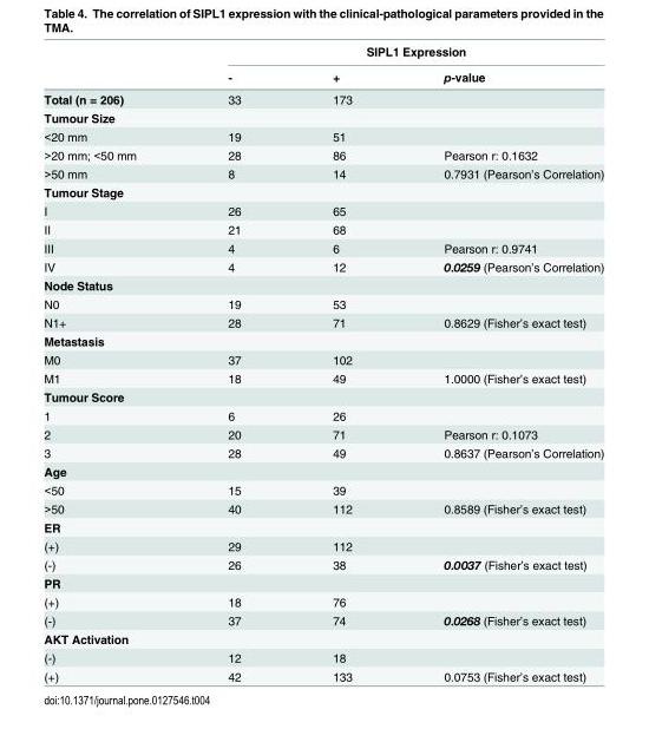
<table><thead><tr><td rowspan="2"></td><td colspan="3">SIPL1 Expression</td></tr><tr><td>-</td><td>+</td><td>p-value</td></tr></thead><tbody><tr><td>Total (n = 206)</td><td>33</td><td>173</td><td></td></tr><tr><td colspan="4">Tumour Size</td></tr><tr><td>&lt;20 mm</td><td>19</td><td>51</td><td></td></tr><tr><td>&gt;20 mm; &lt;50 mm</td><td>28</td><td>86</td><td>Pearson r: 0.1632</td></tr><tr><td>&gt;50 mm</td><td>8</td><td>14</td><td>0.7931 (Pearson’s Correlation)</td></tr><tr><td colspan="4">Tumour Stage</td></tr><tr><td>I</td><td>26</td><td>65</td><td></td></tr><tr><td>II</td><td>21</td><td>68</td><td></td></tr><tr><td>III</td><td>4</td><td>6</td><td>Pearson r: 0.9741</td></tr><tr><td>IV</td><td>4</td><td>12</td><td>0.0259 (Pearson’s Correlation)</td></tr><tr><td colspan="4">Node Status</td></tr><tr><td>N0</td><td>19</td><td>53</td><td></td></tr><tr><td>N1+</td><td>28</td><td>71</td><td>0.8629 (Fisher’s exact test)</td></tr><tr><td colspan="4">Metastasis</td></tr><tr><td>M0</td><td>37</td><td>102</td><td></td></tr><tr><td>M1</td><td>18</td><td>49</td><td>1.0000 (Fisher’s exact test)</td></tr><tr><td colspan="4">Tumour Score</td></tr><tr><td>1</td><td>6</td><td>26</td><td></td></tr><tr><td>2</td><td>20</td><td>71</td><td>Pearson r: 0.1073</td></tr><tr><td>3</td><td>28</td><td>49</td><td>0.8637 (Pearson’s Correlation)</td></tr><tr><td colspan="4">Age</td></tr><tr><td>&lt;50</td><td>15</td><td>39</td><td></td></tr><tr><td>&gt;50</td><td>40</td><td>112</td><td>0.8589 (Fisher’s exact test)</td></tr><tr><td colspan="4">ER</td></tr><tr><td>(+)</td><td>29</td><td>112</td><td></td></tr><tr><td>(-)</td><td>26</td><td>38</td><td>0.0037 (Fisher’s exact test)</td></tr><tr><td colspan="4">PR</td></tr><tr><td>(+)</td><td>18</td><td>76</td><td></td></tr><tr><td>(-)</td><td>37</td><td>74</td><td>0.0268 (Fisher’s exact test)</td></tr><tr><td colspan="4">AKT Activation</td></tr><tr><td>(-)</td><td>12</td><td>18</td><td></td></tr><tr><td>(+)</td><td>42</td><td>133</td><td>0.0753 (Fisher’s exact test)</td></tr></tbody></table>